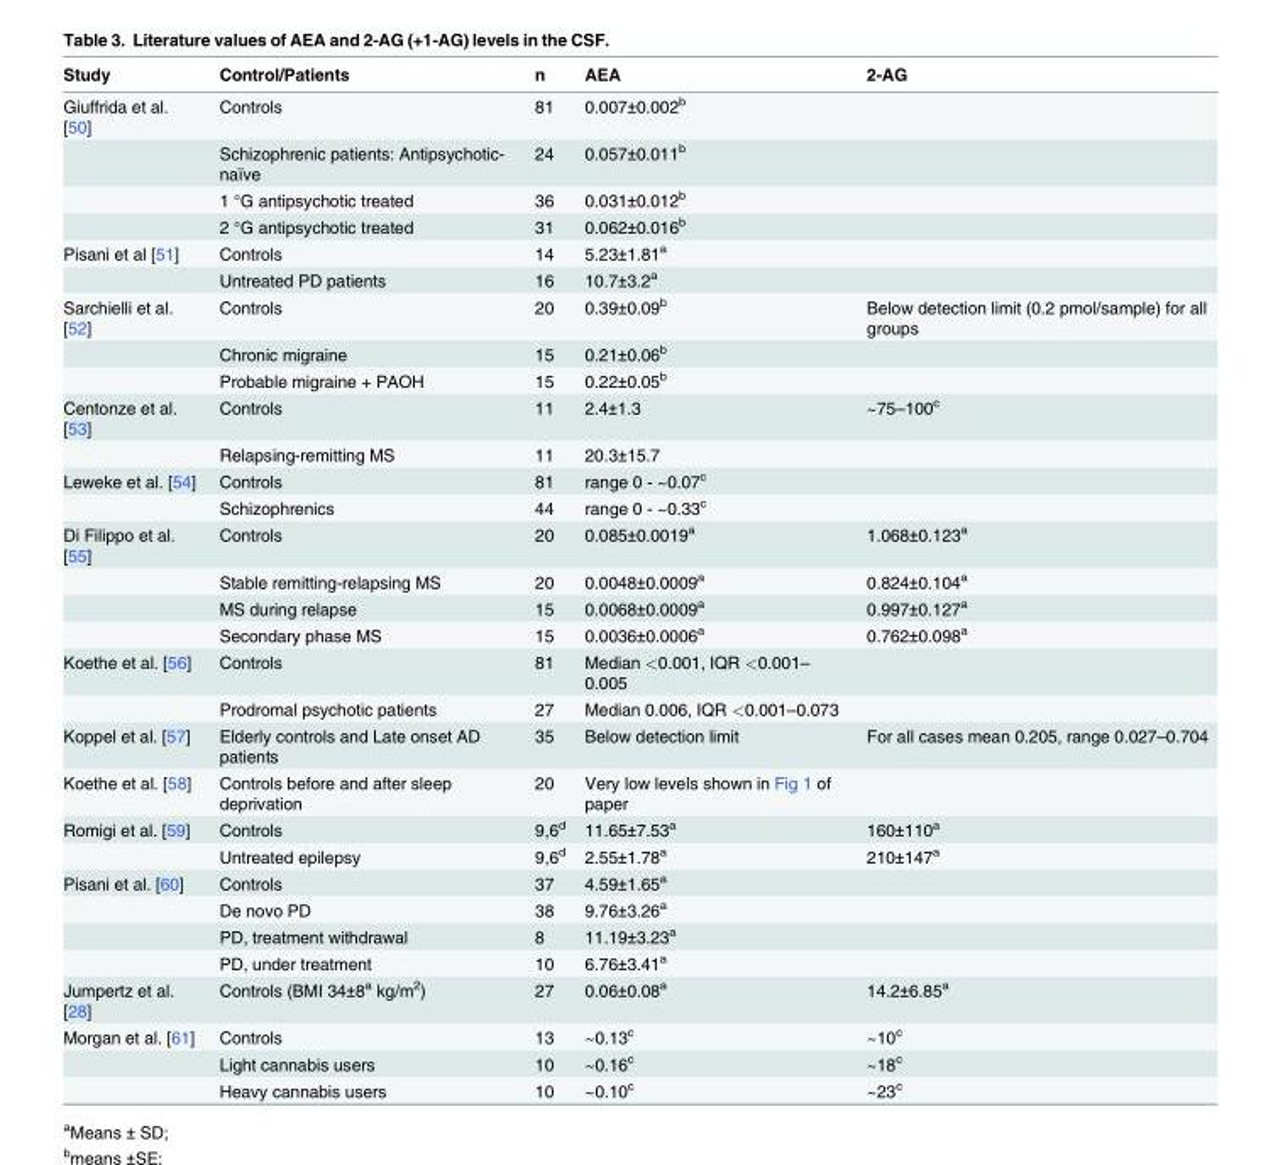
<table><thead><tr><td>Study</td><td>Control/Patients</td><td>n</td><td>AEA</td><td>2-AG</td></tr></thead><tbody><tr><td rowspan="4">Giuffrida et al. [50]</td><td>Controls</td><td>81</td><td>0.007±0.002<sup>b</sup></td><td></td></tr><tr><td>Schizophrenic patients: Antipsychotic- naïve</td><td>24</td><td>0.057±0.011<sup>b</sup></td><td></td></tr><tr><td>1 °G antipsychotic treated</td><td>36</td><td>0.031±0.012<sup>b</sup></td><td></td></tr><tr><td>2 °G antipsychotic treated</td><td>31</td><td>0.062±0.016<sup>b</sup></td><td></td></tr><tr><td rowspan="2">Pisani et al [51]</td><td>Controls</td><td>14</td><td>5.23±1.81<sup>a</sup></td><td></td></tr><tr><td>Untreated PD patients</td><td>16</td><td>10.7±3.2<sup>a</sup></td><td></td></tr><tr><td rowspan="3">Sarchielli et al. [52]</td><td>Controls</td><td>20</td><td>0.39±0.09<sup>b</sup></td><td>Below detection limit (0.2 pmol/sample) for all groups</td></tr><tr><td>Chronic migraine</td><td>15</td><td>0.21±0.06<sup>b</sup></td><td></td></tr><tr><td>Probable migraine + PAOH</td><td>15</td><td>0.22±0.05<sup>b</sup></td><td></td></tr><tr><td rowspan="2">Centonze et al. [53]</td><td>Controls</td><td>11</td><td>2.4±1.3</td><td>~75–100<sup>c</sup></td></tr><tr><td>Relapsing-remitting MS</td><td>11</td><td>20.3±15.7</td><td></td></tr><tr><td rowspan="2">Leweke et al. [54]</td><td>Controls</td><td>81</td><td>range 0 - ~0.07<sup>c</sup></td><td></td></tr><tr><td>Schizophrenics</td><td>44</td><td>range 0 - ~0.33<sup>c</sup></td><td></td></tr><tr><td rowspan="4">Di Filippo et al. [55]</td><td>Controls</td><td>20</td><td>0.085±0.0019<sup>a</sup></td><td>1.068±0.123<sup>a</sup></td></tr><tr><td>Stable remitting-relapsing MS</td><td>20</td><td>0.0048±0.0009<sup>a</sup></td><td>0.824±0.104<sup>a</sup></td></tr><tr><td>MS during relapse</td><td>15</td><td>0.0068±0.0009<sup>a</sup></td><td>0.997±0.127<sup>a</sup></td></tr><tr><td>Secondary phase MS</td><td>15</td><td>0.0036±0.0006<sup>a</sup></td><td>0.762±0.098<sup>a</sup></td></tr><tr><td rowspan="2">Koethe et al. [56]</td><td>Controls</td><td>81</td><td>Median &lt;0.001, IQR &lt;0.001– 0.005</td><td></td></tr><tr><td>Prodromal psychotic patients</td><td>27</td><td>Median 0.006, IQR &lt;0.001–0.073</td><td></td></tr><tr><td>Koppel et al. [57]</td><td>Elderly controls and Late onset AD patients</td><td>35</td><td>Below detection limit</td><td>For all cases mean 0.205, range 0.027–0.704</td></tr><tr><td>Koethe et al. [58]</td><td>Controls before and after sleep deprivation</td><td>20</td><td>Very low levels shown in Fig 1 of paper</td><td></td></tr><tr><td rowspan="2">Romigi et al. [59]</td><td>Controls</td><td>9,6<sup>d</sup></td><td>11.65±7.53<sup>a</sup></td><td>160±110<sup>a</sup></td></tr><tr><td>Untreated epilepsy</td><td>9,6<sup>d</sup></td><td>2.55±1.78<sup>a</sup></td><td>210±147<sup>a</sup></td></tr><tr><td rowspan="4">Pisani et al. [60]</td><td>Controls</td><td>37</td><td>4.59±1.65<sup>a</sup></td><td></td></tr><tr><td>De novo PD</td><td>38</td><td>9.76±3.26<sup>a</sup></td><td></td></tr><tr><td>PD, treatment withdrawal</td><td>8</td><td>11.19±3.23<sup>a</sup></td><td></td></tr><tr><td>PD, under treatment</td><td>10</td><td>6.76±3.41<sup>a</sup></td><td></td></tr><tr><td>Jumpertz et al. [28]</td><td>Controls (BMI 34±8<sup>a</sup> kg/m<sup>2</sup>)</td><td>27</td><td>0.06±0.08<sup>a</sup></td><td>14.2±6.85<sup>a</sup></td></tr><tr><td rowspan="3">Morgan et al. [61]</td><td>Controls</td><td>13</td><td>~0.13<sup>c</sup></td><td>~10<sup>c</sup></td></tr><tr><td>Light cannabis users</td><td>10</td><td>~0.16<sup>c</sup></td><td>~18<sup>c</sup></td></tr><tr><td>Heavy cannabis users</td><td>10</td><td>~0.10<sup>c</sup></td><td>~23<sup>c</sup></td></tr></tbody></table>